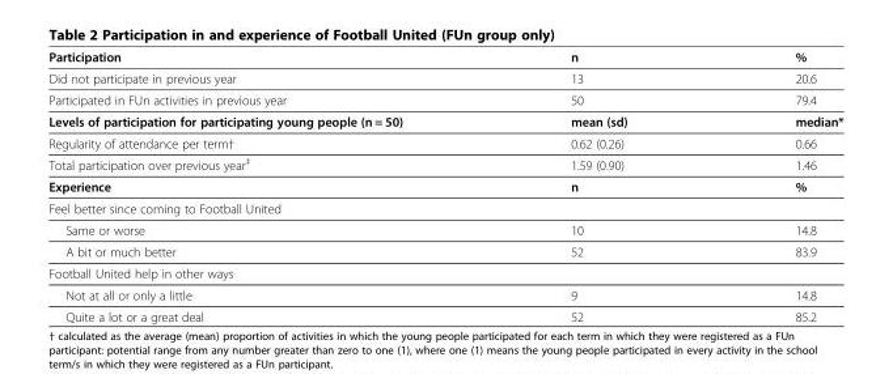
<table><thead><tr><td>Participation</td><td>n</td><td>%</td></tr></thead><tbody><tr><td>Did not participate in previous year</td><td>13</td><td>20.6</td></tr><tr><td>Participated in FUn activities in previous year</td><td>50</td><td>79.4</td></tr><tr><td>Levels of participation for participating young people (n = 50)</td><td>mean (sd)</td><td>median*</td></tr><tr><td>Regularity of attendance per term†</td><td>0.62 (0.26)</td><td>0.66</td></tr><tr><td>Total participation over previous year<sup>‡</sup></td><td>1.59 (0.90)</td><td>1.46</td></tr><tr><td>Experience</td><td>n</td><td>%</td></tr><tr><td colspan="3">Feel better since coming to Football United</td></tr><tr><td>Same or worse</td><td>10</td><td>14.8</td></tr><tr><td>A bit or much better</td><td>52</td><td>83.9</td></tr><tr><td colspan="3">Football United help in other ways</td></tr><tr><td>Not at all or only a little</td><td>9</td><td>14.8</td></tr><tr><td>Quite a lot or a great deal</td><td>52</td><td>85.2</td></tr></tbody></table>